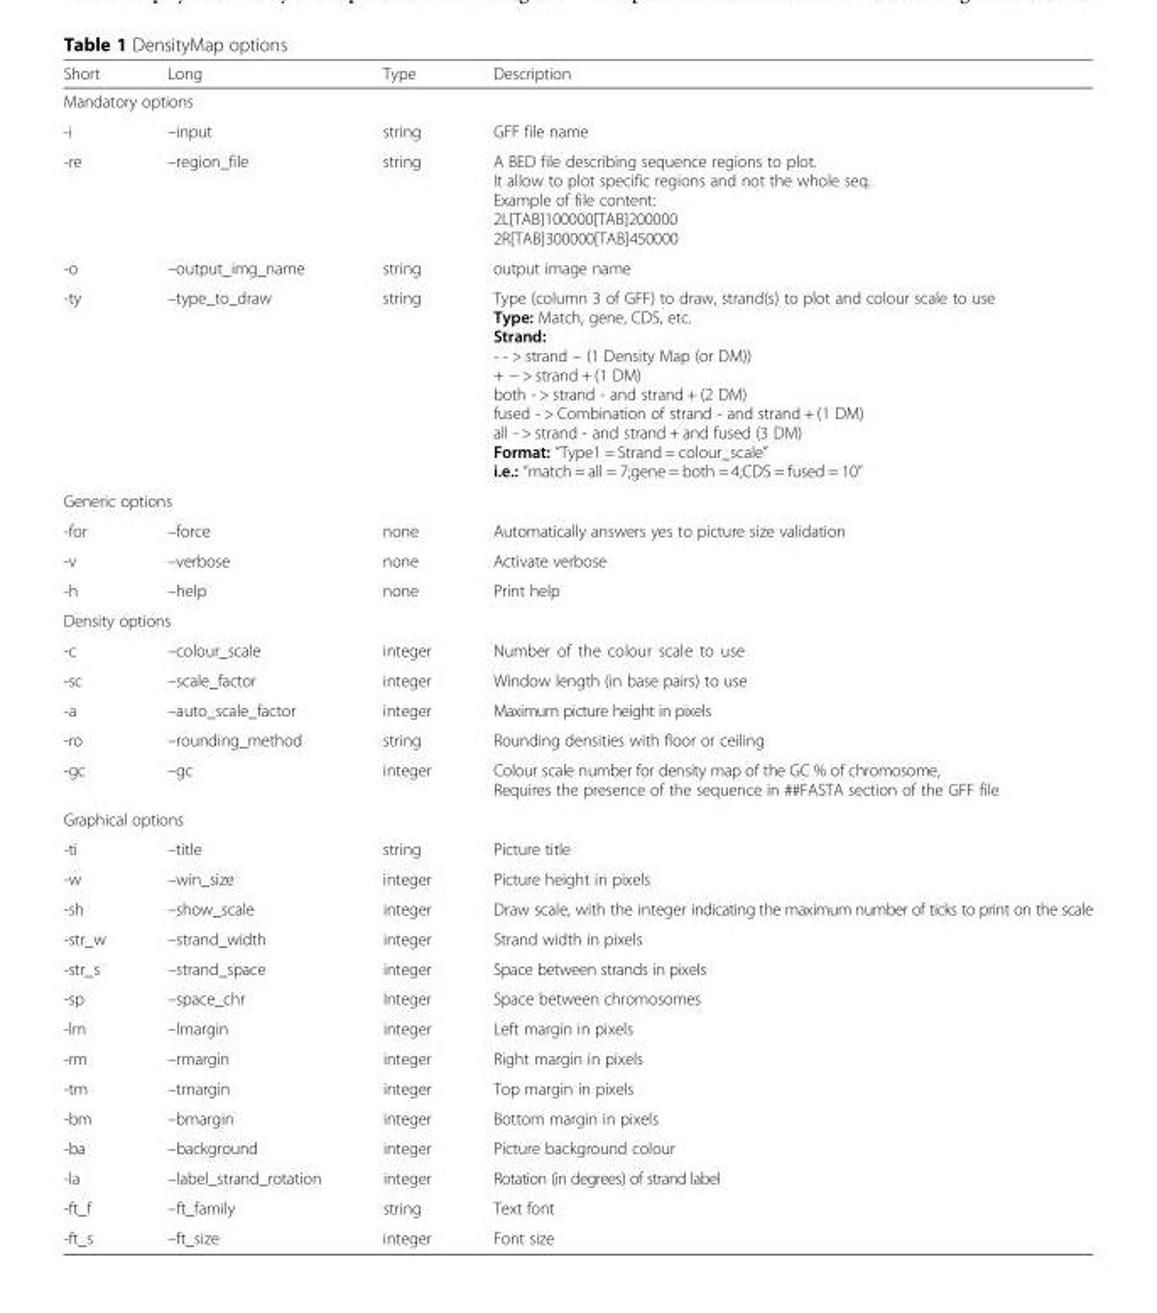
<table><thead><tr><td>Short</td><td>Long</td><td>Type</td><td>Description</td></tr></thead><tbody><tr><td colspan="4">Mandatory options</td></tr><tr><td>-i</td><td>–input</td><td>string</td><td>GFF file name</td></tr><tr><td>-re</td><td>–region_file</td><td>string</td><td>A BED file describing sequence regions to plot. It allow to plot specific regions and not the whole seq. Example of file content: 2L[TAB]100000[TAB]200000 2R[TAB]300000[TAB]450000</td></tr><tr><td>-o</td><td>–output_img_name</td><td>string</td><td>output image name</td></tr><tr><td>-ty</td><td>–type_to_draw</td><td>string</td><td>Type (column 3 of GFF) to draw, strand(s) to plot and colour scale to use Type: Match, gene, CDS, etc. Strand: - - &gt; strand – (1 Density Map (or DM)) + − &gt; strand + (1 DM) both - &gt; strand - and strand + (2 DM) fused - &gt; Combination of strand - and strand + (1 DM) all - &gt; strand - and strand + and fused (3 DM) Format: “Type1 = Strand = colour_scale” i.e.: “match = all = 7;gene = both = 4;CDS = fused = 10”</td></tr><tr><td colspan="4">Generic options</td></tr><tr><td>-for</td><td>–force</td><td>none</td><td>Automatically answers yes to picture size validation</td></tr><tr><td>-v</td><td>–verbose</td><td>none</td><td>Activate verbose</td></tr><tr><td>-h</td><td>–help</td><td>none</td><td>Print help</td></tr><tr><td colspan="4">Density options</td></tr><tr><td>-c</td><td>–colour_scale</td><td>integer</td><td>Number of the colour scale to use</td></tr><tr><td>-sc</td><td>–scale_factor</td><td>integer</td><td>Window length (in base pairs) to use</td></tr><tr><td>-a</td><td>–auto_scale_factor</td><td>integer</td><td>Maximum picture height in pixels</td></tr><tr><td>-ro</td><td>–rounding_method</td><td>string</td><td>Rounding densities with floor or ceiling</td></tr><tr><td>-gc</td><td>–gc</td><td>integer</td><td>Colour scale number for density map of the GC % of chromosome, Requires the presence of the sequence in ##FASTA section of the GFF file</td></tr><tr><td colspan="4">Graphical options</td></tr><tr><td>-ti</td><td>–title</td><td>string</td><td>Picture title</td></tr><tr><td>-w</td><td>–win_size</td><td>integer</td><td>Picture height in pixels</td></tr><tr><td>-sh</td><td>–show_scale</td><td>integer</td><td>Draw scale, with the integer indicating the maximum number of ticks to print on the scale</td></tr><tr><td>-str_w</td><td>–strand_width</td><td>integer</td><td>Strand width in pixels</td></tr><tr><td>-str_s</td><td>–strand_space</td><td>integer</td><td>Space between strands in pixels</td></tr><tr><td>-sp</td><td>–space_chr</td><td>Integer</td><td>Space between chromosomes</td></tr><tr><td>-lm</td><td>–lmargin</td><td>integer</td><td>Left margin in pixels</td></tr><tr><td>-rm</td><td>–rmargin</td><td>integer</td><td>Right margin in pixels</td></tr><tr><td>-tm</td><td>–tmargin</td><td>integer</td><td>Top margin in pixels</td></tr><tr><td>-bm</td><td>–bmargin</td><td>integer</td><td>Bottom margin in pixels</td></tr><tr><td>-ba</td><td>–background</td><td>integer</td><td>Picture background colour</td></tr><tr><td>-la</td><td>–label_strand_rotation</td><td>integer</td><td>Rotation (in degrees) of strand label</td></tr><tr><td>-ft_f</td><td>–ft_family</td><td>string</td><td>Text font</td></tr><tr><td>-ft_s</td><td>–ft_size</td><td>integer</td><td>Font size</td></tr></tbody></table>